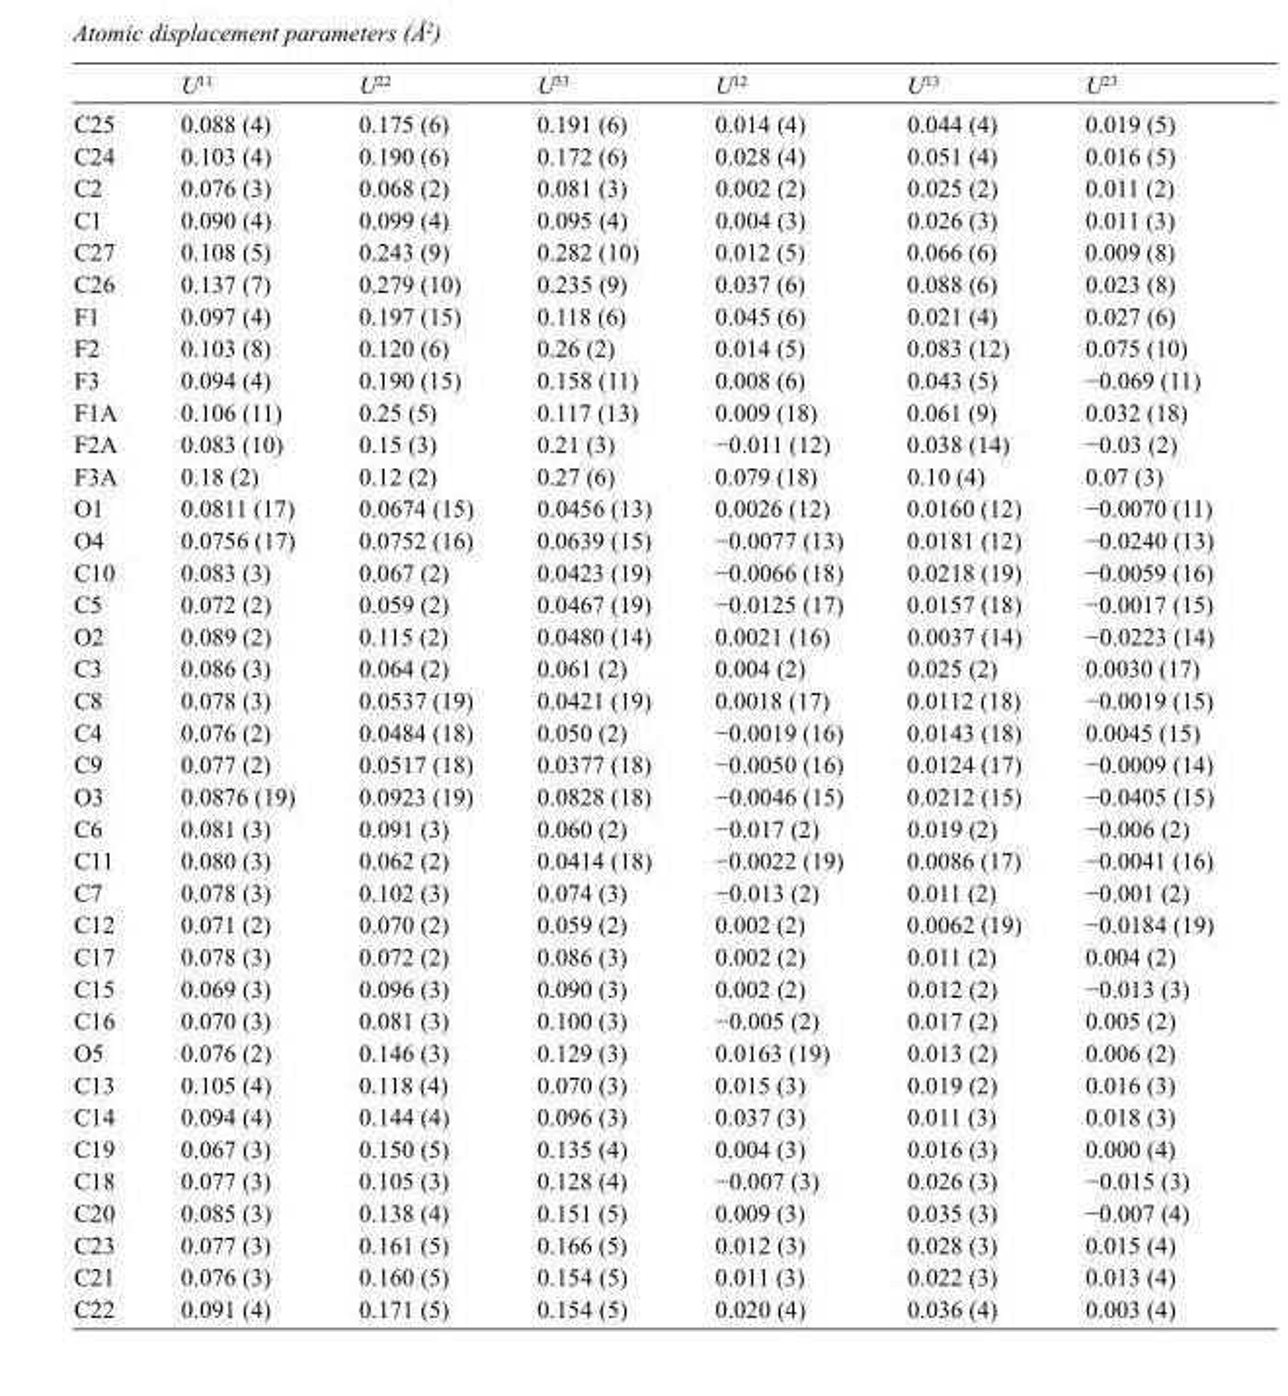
<table><thead><tr><td></td><td>U<sup>11</sup></td><td>U<sup>22</sup></td><td>U<sup>33</sup></td><td>U<sup>12</sup></td><td>U<sup>13</sup></td><td>U<sup>23</sup></td></tr></thead><tbody><tr><td>C25</td><td>0.088 (4)</td><td>0.175 (6)</td><td>0.191 (6)</td><td>0.014 (4)</td><td>0.044 (4)</td><td>0.019 (5)</td></tr><tr><td>C24</td><td>0.103 (4)</td><td>0.190 (6)</td><td>0.172 (6)</td><td>0.028 (4)</td><td>0.051 (4)</td><td>0.016 (5)</td></tr><tr><td>C2</td><td>0.076 (3)</td><td>0.068 (2)</td><td>0.081 (3)</td><td>0.002 (2)</td><td>0.025 (2)</td><td>0.011 (2)</td></tr><tr><td>C1</td><td>0.090 (4)</td><td>0.099 (4)</td><td>0.095 (4)</td><td>0.004 (3)</td><td>0.026 (3)</td><td>0.011 (3)</td></tr><tr><td>C27</td><td>0.108 (5)</td><td>0.243 (9)</td><td>0.282 (10)</td><td>0.012 (5)</td><td>0.066 (6)</td><td>0.009 (8)</td></tr><tr><td>C26</td><td>0.137 (7)</td><td>0.279 (10)</td><td>0.235 (9)</td><td>0.037 (6)</td><td>0.088 (6)</td><td>0.023 (8)</td></tr><tr><td>F1</td><td>0.097 (4)</td><td>0.197 (15)</td><td>0.118 (6)</td><td>0.045 (6)</td><td>0.021 (4)</td><td>0.027 (6)</td></tr><tr><td>F2</td><td>0.103 (8)</td><td>0.120 (6)</td><td>0.26 (2)</td><td>0.014 (5)</td><td>0.083 (12)</td><td>0.075 (10)</td></tr><tr><td>F3</td><td>0.094 (4)</td><td>0.190 (15)</td><td>0.158 (11)</td><td>0.008 (6)</td><td>0.043 (5)</td><td>−0.069 (11)</td></tr><tr><td>F1A</td><td>0.106 (11)</td><td>0.25 (5)</td><td>0.117 (13)</td><td>0.009 (18)</td><td>0.061 (9)</td><td>0.032 (18)</td></tr><tr><td>F2A</td><td>0.083 (10)</td><td>0.15 (3)</td><td>0.21 (3)</td><td>−0.011 (12)</td><td>0.038 (14)</td><td>−0.03 (2)</td></tr><tr><td>F3A</td><td>0.18 (2)</td><td>0.12 (2)</td><td>0.27 (6)</td><td>0.079 (18)</td><td>0.10 (4)</td><td>0.07 (3)</td></tr><tr><td>O1</td><td>0.0811 (17)</td><td>0.0674 (15)</td><td>0.0456 (13)</td><td>0.0026 (12)</td><td>0.0160 (12)</td><td>−0.0070 (11)</td></tr><tr><td>O4</td><td>0.0756 (17)</td><td>0.0752 (16)</td><td>0.0639 (15)</td><td>−0.0077 (13)</td><td>0.0181 (12)</td><td>−0.0240 (13)</td></tr><tr><td>C10</td><td>0.083 (3)</td><td>0.067 (2)</td><td>0.0423 (19)</td><td>−0.0066 (18)</td><td>0.0218 (19)</td><td>−0.0059 (16)</td></tr><tr><td>C5</td><td>0.072 (2)</td><td>0.059 (2)</td><td>0.0467 (19)</td><td>−0.0125 (17)</td><td>0.0157 (18)</td><td>−0.0017 (15)</td></tr><tr><td>O2</td><td>0.089 (2)</td><td>0.115 (2)</td><td>0.0480 (14)</td><td>0.0021 (16)</td><td>0.0037 (14)</td><td>−0.0223 (14)</td></tr><tr><td>C3</td><td>0.086 (3)</td><td>0.064 (2)</td><td>0.061 (2)</td><td>0.004 (2)</td><td>0.025 (2)</td><td>0.0030 (17)</td></tr><tr><td>C8</td><td>0.078 (3)</td><td>0.0537 (19)</td><td>0.0421 (19)</td><td>0.0018 (17)</td><td>0.0112 (18)</td><td>−0.0019 (15)</td></tr><tr><td>C4</td><td>0.076 (2)</td><td>0.0484 (18)</td><td>0.050 (2)</td><td>−0.0019 (16)</td><td>0.0143 (18)</td><td>0.0045 (15)</td></tr><tr><td>C9</td><td>0.077 (2)</td><td>0.0517 (18)</td><td>0.0377 (18)</td><td>−0.0050 (16)</td><td>0.0124 (17)</td><td>−0.0009 (14)</td></tr><tr><td>O3</td><td>0.0876 (19)</td><td>0.0923 (19)</td><td>0.0828 (18)</td><td>−0.0046 (15)</td><td>0.0212 (15)</td><td>−0.0405 (15)</td></tr><tr><td>C6</td><td>0.081 (3)</td><td>0.091 (3)</td><td>0.060 (2)</td><td>−0.017 (2)</td><td>0.019 (2)</td><td>−0.006 (2)</td></tr><tr><td>C11</td><td>0.080 (3)</td><td>0.062 (2)</td><td>0.0414 (18)</td><td>−0.0022 (19)</td><td>0.0086 (17)</td><td>−0.0041 (16)</td></tr><tr><td>C7</td><td>0.078 (3)</td><td>0.102 (3)</td><td>0.074 (3)</td><td>−0.013 (2)</td><td>0.011 (2)</td><td>−0.001 (2)</td></tr><tr><td>C12</td><td>0.071 (2)</td><td>0.070 (2)</td><td>0.059 (2)</td><td>0.002 (2)</td><td>0.0062 (19)</td><td>−0.0184 (19)</td></tr><tr><td>C17</td><td>0.078 (3)</td><td>0.072 (2)</td><td>0.086 (3)</td><td>0.002 (2)</td><td>0.011 (2)</td><td>0.004 (2)</td></tr><tr><td>C15</td><td>0.069 (3)</td><td>0.096 (3)</td><td>0.090 (3)</td><td>0.002 (2)</td><td>0.012 (2)</td><td>−0.013 (3)</td></tr><tr><td>C16</td><td>0.070 (3)</td><td>0.081 (3)</td><td>0.100 (3)</td><td>−0.005 (2)</td><td>0.017 (2)</td><td>0.005 (2)</td></tr><tr><td>O5</td><td>0.076 (2)</td><td>0.146 (3)</td><td>0.129 (3)</td><td>0.0163 (19)</td><td>0.013 (2)</td><td>0.006 (2)</td></tr><tr><td>C13</td><td>0.105 (4)</td><td>0.118 (4)</td><td>0.070 (3)</td><td>0.015 (3)</td><td>0.019 (2)</td><td>0.016 (3)</td></tr><tr><td>C14</td><td>0.094 (4)</td><td>0.144 (4)</td><td>0.096 (3)</td><td>0.037 (3)</td><td>0.011 (3)</td><td>0.018 (3)</td></tr><tr><td>C19</td><td>0.067 (3)</td><td>0.150 (5)</td><td>0.135 (4)</td><td>0.004 (3)</td><td>0.016 (3)</td><td>0.000 (4)</td></tr><tr><td>C18</td><td>0.077 (3)</td><td>0.105 (3)</td><td>0.128 (4)</td><td>−0.007 (3)</td><td>0.026 (3)</td><td>−0.015 (3)</td></tr><tr><td>C20</td><td>0.085 (3)</td><td>0.138 (4)</td><td>0.151 (5)</td><td>0.009 (3)</td><td>0.035 (3)</td><td>−0.007 (4)</td></tr><tr><td>C23</td><td>0.077 (3)</td><td>0.161 (5)</td><td>0.166 (5)</td><td>0.012 (3)</td><td>0.028 (3)</td><td>0.015 (4)</td></tr><tr><td>C21</td><td>0.076 (3)</td><td>0.160 (5)</td><td>0.154 (5)</td><td>0.011 (3)</td><td>0.022 (3)</td><td>0.013 (4)</td></tr><tr><td>C22</td><td>0.091 (4)</td><td>0.171 (5)</td><td>0.154 (5)</td><td>0.020 (4)</td><td>0.036 (4)</td><td>0.003 (4)</td></tr></tbody></table>